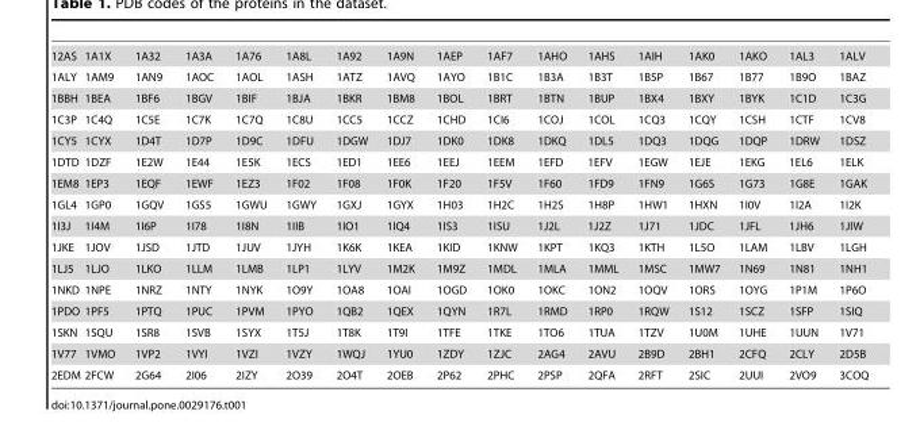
<table><tbody><tr><td>12AS</td><td>1A1X</td><td>1A32</td><td>1A3A</td><td>1A76</td><td>1A8L</td><td>1A92</td><td>1A9N</td><td>1AEP</td><td>1AF7</td><td>1AHO</td><td>1AHS</td><td>1AIH</td><td>1AK0</td><td>1AKO</td><td>1AL3</td><td>1ALV</td></tr><tr><td>1ALY</td><td>1AM9</td><td>1AN9</td><td>1AOC</td><td>1AOL</td><td>1ASH</td><td>1ATZ</td><td>1AVQ</td><td>1AYO</td><td>1B1C</td><td>1B3A</td><td>1B3T</td><td>1B5P</td><td>1B67</td><td>1B77</td><td>1B9O</td><td>1BAZ</td></tr><tr><td>1BBH</td><td>1BEA</td><td>1BF6</td><td>1BGV</td><td>1BIF</td><td>1BJA</td><td>1BKR</td><td>1BM8</td><td>1BOL</td><td>1BRT</td><td>1BTN</td><td>1BUP</td><td>1BX4</td><td>1BXY</td><td>1BYK</td><td>1C1D</td><td>1C3G</td></tr><tr><td>1C3P</td><td>1C4Q</td><td>1C5E</td><td>1C7K</td><td>1C7Q</td><td>1C8U</td><td>1CC5</td><td>1CCZ</td><td>1CHD</td><td>1CI6</td><td>1COJ</td><td>1COL</td><td>1CQ3</td><td>1CQY</td><td>1CSH</td><td>1CTF</td><td>1CV8</td></tr><tr><td>1CY5</td><td>1CYX</td><td>1D4T</td><td>1D7P</td><td>1D9C</td><td>1DFU</td><td>1DGW</td><td>1DJ7</td><td>1DK0</td><td>1DK8</td><td>1DKQ</td><td>1DL5</td><td>1DQ3</td><td>1DQG</td><td>1DQP</td><td>1DRW</td><td>1DSZ</td></tr><tr><td>1DTD</td><td>1DZF</td><td>1E2W</td><td>1E44</td><td>1E5K</td><td>1ECS</td><td>1ED1</td><td>1EE6</td><td>1EEJ</td><td>1EEM</td><td>1EFD</td><td>1EFV</td><td>1EGW</td><td>1EJE</td><td>1EKG</td><td>1EL6</td><td>1ELK</td></tr><tr><td>1EM8</td><td>1EP3</td><td>1EQF</td><td>1EWF</td><td>1EZ3</td><td>1F02</td><td>1F08</td><td>1F0K</td><td>1F20</td><td>1F5V</td><td>1F60</td><td>1FD9</td><td>1FN9</td><td>1G6S</td><td>1G73</td><td>1G8E</td><td>1GAK</td></tr><tr><td>1GL4</td><td>1GP0</td><td>1GQV</td><td>1GS5</td><td>1GWU</td><td>1GWY</td><td>1GXJ</td><td>1GYX</td><td>1H03</td><td>1H2C</td><td>1H2S</td><td>1H8P</td><td>1HW1</td><td>1HXN</td><td>1I0V</td><td>1I2A</td><td>1I2K</td></tr><tr><td>1I3J</td><td>1I4M</td><td>1I6P</td><td>1I78</td><td>1I8N</td><td>1IIB</td><td>1IO1</td><td>1IQ4</td><td>1IS3</td><td>1ISU</td><td>1J2L</td><td>1J2Z</td><td>1J71</td><td>1JDC</td><td>1JFL</td><td>1JH6</td><td>1JIW</td></tr><tr><td>1JKE</td><td>1JOV</td><td>1JSD</td><td>1JTD</td><td>1JUV</td><td>1JYH</td><td>1K6K</td><td>1KEA</td><td>1KID</td><td>1KNW</td><td>1KPT</td><td>1KQ3</td><td>1KTH</td><td>1L5O</td><td>1LAM</td><td>1LBV</td><td>1LGH</td></tr><tr><td>1LJ5</td><td>1LJO</td><td>1LKO</td><td>1LLM</td><td>1LMB</td><td>1LP1</td><td>1LYV</td><td>1M2K</td><td>1M9Z</td><td>1MDL</td><td>1MLA</td><td>1MML</td><td>1MSC</td><td>1MW7</td><td>1N69</td><td>1N81</td><td>1NH1</td></tr><tr><td>1NKD</td><td>1NPE</td><td>1NRZ</td><td>1NTY</td><td>1NYK</td><td>1O9Y</td><td>1OA8</td><td>1OAI</td><td>1OGD</td><td>1OK0</td><td>1OKC</td><td>1ON2</td><td>1OQV</td><td>1ORS</td><td>1OYG</td><td>1P1M</td><td>1P6O</td></tr><tr><td>1PDO</td><td>1PF5</td><td>1PTQ</td><td>1PUC</td><td>1PVM</td><td>1PYO</td><td>1QB2</td><td>1QEX</td><td>1QYN</td><td>1R7L</td><td>1RMD</td><td>1RP0</td><td>1RQW</td><td>1S12</td><td>1SCZ</td><td>1SFP</td><td>1SIQ</td></tr><tr><td>1SKN</td><td>1SQU</td><td>1SR8</td><td>1SVB</td><td>1SYX</td><td>1T5J</td><td>1T8K</td><td>1T9I</td><td>1TFE</td><td>1TKE</td><td>1TO6</td><td>1TUA</td><td>1TZV</td><td>1U0M</td><td>1UHE</td><td>1UUN</td><td>1V71</td></tr><tr><td>1V77</td><td>1VMO</td><td>1VP2</td><td>1VYI</td><td>1VZI</td><td>1VZY</td><td>1WQJ</td><td>1YU0</td><td>1ZDY</td><td>1ZJC</td><td>2AG4</td><td>2AVU</td><td>2B9D</td><td>2BH1</td><td>2CFQ</td><td>2CLY</td><td>2D5B</td></tr><tr><td>2EDM</td><td>2FCW</td><td>2G64</td><td>2I06</td><td>2IZY</td><td>2O39</td><td>2O4T</td><td>2OEB</td><td>2P62</td><td>2PHC</td><td>2PSP</td><td>2QFA</td><td>2RFT</td><td>2SIC</td><td>2UUI</td><td>2VO9</td><td>3COQ</td></tr></tbody></table>